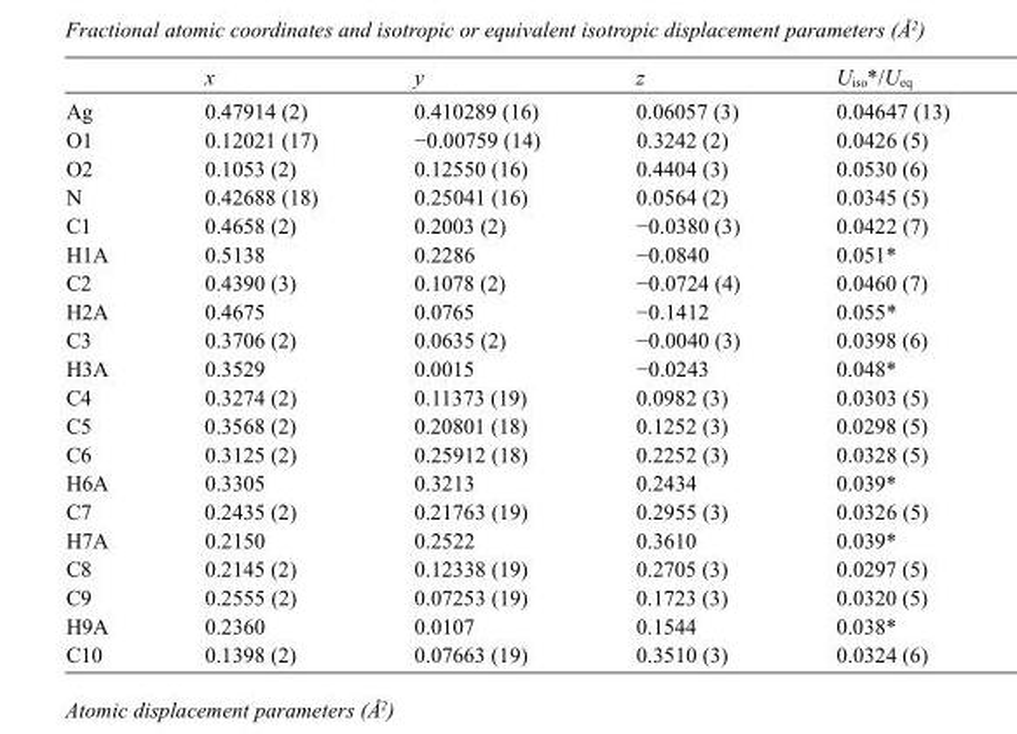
<table><thead><tr><td></td><td>x</td><td>y</td><td>z</td><td>U<sub>iso</sub>*/U<sub>eq</sub></td></tr></thead><tbody><tr><td>Ag</td><td>0.47914 (2)</td><td>0.410289 (16)</td><td>0.06057 (3)</td><td>0.04647 (13)</td></tr><tr><td>O1</td><td>0.12021 (17)</td><td>−0.00759 (14)</td><td>0.3242 (2)</td><td>0.0426 (5)</td></tr><tr><td>O2</td><td>0.1053 (2)</td><td>0.12550 (16)</td><td>0.4404 (3)</td><td>0.0530 (6)</td></tr><tr><td>N</td><td>0.42688 (18)</td><td>0.25041 (16)</td><td>0.0564 (2)</td><td>0.0345 (5)</td></tr><tr><td>C1</td><td>0.4658 (2)</td><td>0.2003 (2)</td><td>−0.0380 (3)</td><td>0.0422 (7)</td></tr><tr><td>H1A</td><td>0.5138</td><td>0.2286</td><td>−0.0840</td><td>0.051*</td></tr><tr><td>C2</td><td>0.4390 (3)</td><td>0.1078 (2)</td><td>−0.0724 (4)</td><td>0.0460 (7)</td></tr><tr><td>H2A</td><td>0.4675</td><td>0.0765</td><td>−0.1412</td><td>0.055*</td></tr><tr><td>C3</td><td>0.3706 (2)</td><td>0.0635 (2)</td><td>−0.0040 (3)</td><td>0.0398 (6)</td></tr><tr><td>H3A</td><td>0.3529</td><td>0.0015</td><td>−0.0243</td><td>0.048*</td></tr><tr><td>C4</td><td>0.3274 (2)</td><td>0.11373 (19)</td><td>0.0982 (3)</td><td>0.0303 (5)</td></tr><tr><td>C5</td><td>0.3568 (2)</td><td>0.20801 (18)</td><td>0.1252 (3)</td><td>0.0298 (5)</td></tr><tr><td>C6</td><td>0.3125 (2)</td><td>0.25912 (18)</td><td>0.2252 (3)</td><td>0.0328 (5)</td></tr><tr><td>H6A</td><td>0.3305</td><td>0.3213</td><td>0.2434</td><td>0.039*</td></tr><tr><td>C7</td><td>0.2435 (2)</td><td>0.21763 (19)</td><td>0.2955 (3)</td><td>0.0326 (5)</td></tr><tr><td>H7A</td><td>0.2150</td><td>0.2522</td><td>0.3610</td><td>0.039*</td></tr><tr><td>C8</td><td>0.2145 (2)</td><td>0.12338 (19)</td><td>0.2705 (3)</td><td>0.0297 (5)</td></tr><tr><td>C9</td><td>0.2555 (2)</td><td>0.07253 (19)</td><td>0.1723 (3)</td><td>0.0320 (5)</td></tr><tr><td>H9A</td><td>0.2360</td><td>0.0107</td><td>0.1544</td><td>0.038*</td></tr><tr><td>C10</td><td>0.1398 (2)</td><td>0.07663 (19)</td><td>0.3510 (3)</td><td>0.0324 (6)</td></tr></tbody></table>